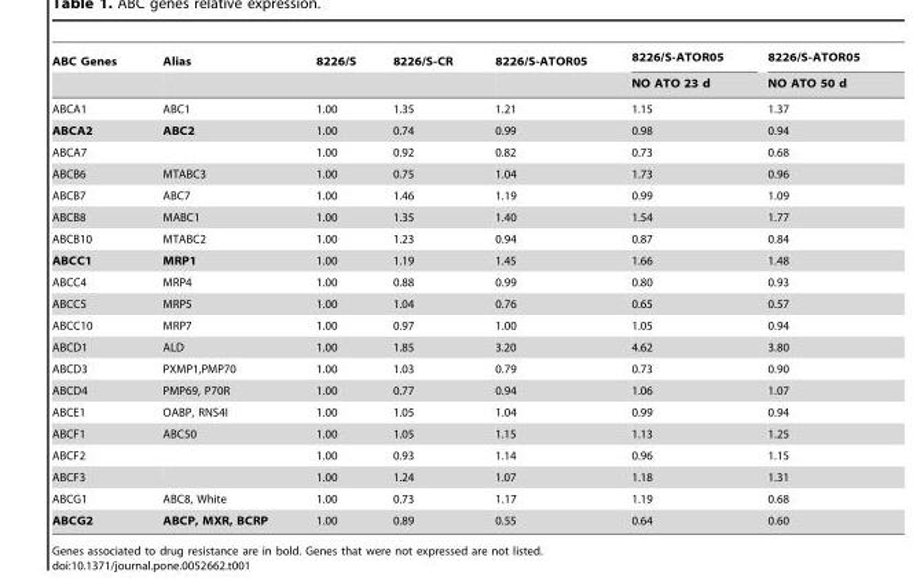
<table><thead><tr><td rowspan="2">ABC Genes</td><td rowspan="2">Alias</td><td rowspan="2">8226/S</td><td rowspan="2">8226/S-CR</td><td rowspan="2">8226/S-ATOR05</td><td rowspan="2">8226/S-ATOR05 NO ATO 23 d</td><td rowspan="2">8226/S-ATOR05 NO ATO 50 d</td></tr><tr></tr></thead><tbody><tr><td>ABCA1</td><td>ABC1</td><td>1.00</td><td>1.35</td><td>1.21</td><td>1.15</td><td>1.37</td></tr><tr><td>ABCA2</td><td>ABC2</td><td>1.00</td><td>0.74</td><td>0.99</td><td>0.98</td><td>0.94</td></tr><tr><td>ABCA7</td><td></td><td>1.00</td><td>0.92</td><td>0.82</td><td>0.73</td><td>0.68</td></tr><tr><td>ABCB6</td><td>MTABC3</td><td>1.00</td><td>0.75</td><td>1.04</td><td>1.73</td><td>0.96</td></tr><tr><td>ABCB7</td><td>ABC7</td><td>1.00</td><td>1.46</td><td>1.19</td><td>0.99</td><td>1.09</td></tr><tr><td>ABCB8</td><td>MABC1</td><td>1.00</td><td>1.35</td><td>1.40</td><td>1.54</td><td>1.77</td></tr><tr><td>ABCB10</td><td>MTABC2</td><td>1.00</td><td>1.23</td><td>0.94</td><td>0.87</td><td>0.84</td></tr><tr><td>ABCC1</td><td>MRP1</td><td>1.00</td><td>1.19</td><td>1.45</td><td>1.66</td><td>1.48</td></tr><tr><td>ABCC4</td><td>MRP4</td><td>1.00</td><td>0.88</td><td>0.99</td><td>0.80</td><td>0.93</td></tr><tr><td>ABCC5</td><td>MRP5</td><td>1.00</td><td>1.04</td><td>0.76</td><td>0.65</td><td>0.57</td></tr><tr><td>ABCC10</td><td>MRP7</td><td>1.00</td><td>0.97</td><td>1.00</td><td>1.05</td><td>0.94</td></tr><tr><td>ABCD1</td><td>ALD</td><td>1.00</td><td>1.85</td><td>3.20</td><td>4.62</td><td>3.80</td></tr><tr><td>ABCD3</td><td>PXMP1,PMP70</td><td>1.00</td><td>1.03</td><td>0.79</td><td>0.73</td><td>0.90</td></tr><tr><td>ABCD4</td><td>PMP69, P70R</td><td>1.00</td><td>0.77</td><td>0.94</td><td>1.06</td><td>1.07</td></tr><tr><td>ABCE1</td><td>OABP, RNS4I</td><td>1.00</td><td>1.05</td><td>1.04</td><td>0.99</td><td>0.94</td></tr><tr><td>ABCF1</td><td>ABC50</td><td>1.00</td><td>1.05</td><td>1.15</td><td>1.13</td><td>1.25</td></tr><tr><td>ABCF2</td><td></td><td>1.00</td><td>0.93</td><td>1.14</td><td>0.96</td><td>1.15</td></tr><tr><td>ABCF3</td><td></td><td>1.00</td><td>1.24</td><td>1.07</td><td>1.18</td><td>1.31</td></tr><tr><td>ABCG1</td><td>ABC8, White</td><td>1.00</td><td>0.73</td><td>1.17</td><td>1.19</td><td>0.68</td></tr><tr><td>ABCG2</td><td>ABCP, MXR, BCRP</td><td>1.00</td><td>0.89</td><td>0.55</td><td>0.64</td><td>0.60</td></tr></tbody></table>